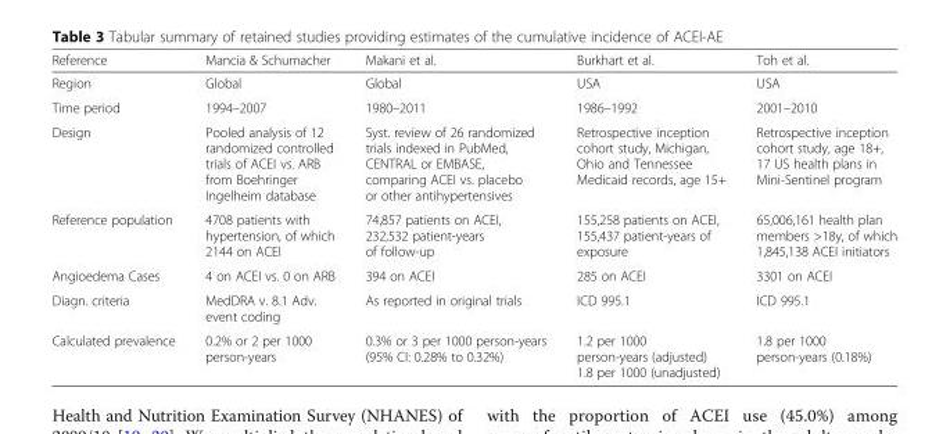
<table><thead><tr><td>Reference</td><td>Mancia &amp; Schumacher</td><td>Makani et al.</td><td>Burkhart et al.</td><td>Toh et al.</td></tr></thead><tbody><tr><td>Region</td><td>Global</td><td>Global</td><td>USA</td><td>USA</td></tr><tr><td>Time period</td><td>1994–2007</td><td>1980–2011</td><td>1986–1992</td><td>2001–2010</td></tr><tr><td>Design</td><td>Pooled analysis of 12 randomized controlled trials of ACEI vs. ARB from Boehringer Ingelheim database</td><td>Syst. review of 26 randomized trials indexed in PubMed, CENTRAL or EMBASE, comparing ACEI vs. placebo or other antihypertensives</td><td>Retrospective inception cohort study, Michigan, Ohio and Tennessee Medicaid records, age 15+</td><td>Retrospective inception cohort study, age 18+, 17 US health plans in Mini-Sentinel program</td></tr><tr><td>Reference population</td><td>4708 patients with hypertension, of which 2144 on ACEI</td><td>74,857 patients on ACEI, 232,532 patient-years of follow-up</td><td>155,258 patients on ACEI, 155,437 patient-years of exposure</td><td>65,006,161 health plan members &gt;18y, of which 1,845,138 ACEI initiators</td></tr><tr><td>Angioedema Cases</td><td>4 on ACEI vs. 0 on ARB</td><td>394 on ACEI</td><td>285 on ACEI</td><td>3301 on ACEI</td></tr><tr><td>Diagn. criteria</td><td>MedDRA v. 8.1 Adv. event coding</td><td>As reported in original trials</td><td>ICD 995.1</td><td>ICD 995.1</td></tr><tr><td>Calculated prevalence</td><td>0.2% or 2 per 1000 person-years</td><td>0.3% or 3 per 1000 person-years (95% CI: 0.28% to 0.32%)</td><td>1.2 per 1000 person-years (adjusted) 1.8 per 1000 (unadjusted)</td><td>1.8 per 1000 person-years (0.18%)</td></tr></tbody></table>